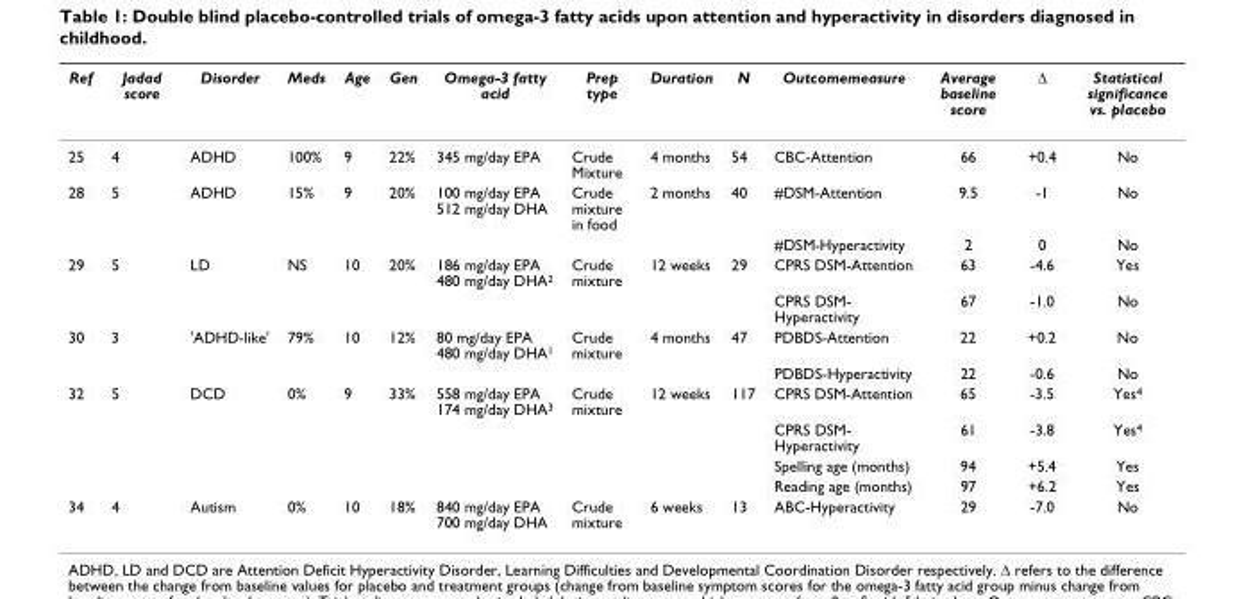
<table><thead><tr><td>Ref</td><td>Jadad score</td><td>Disorder</td><td>Meds</td><td>Age</td><td>Gen</td><td>Omega-3 fatty acid</td><td>Prep type</td><td>Duration</td><td>N</td><td>Outcomemeasure</td><td>Average baseline score</td><td>Δ</td><td>Statistical significance vs. placebo</td></tr></thead><tbody><tr><td>25</td><td>4</td><td>ADHD</td><td>100%</td><td>9</td><td>22%</td><td>345 mg/day EPA</td><td>Crude Mixture</td><td>4 months</td><td>54</td><td>CBC-Attention</td><td>66</td><td>+0.4</td><td>No</td></tr><tr><td rowspan="2">28</td><td>5</td><td>ADHD</td><td>15%</td><td>9</td><td>20%</td><td>100 mg/day EPA 512 mg/day DHA</td><td>Crude mixture in food</td><td>2 months</td><td>40</td><td>#DSM-Attention</td><td>9.5</td><td>-1</td><td>No</td></tr><tr><td></td><td></td><td></td><td></td><td></td><td></td><td></td><td></td><td></td><td>#DSM-Hyperactivity</td><td>2</td><td>0</td><td>No</td></tr><tr><td rowspan="2">29</td><td>5</td><td>LD</td><td>NS</td><td>10</td><td>20%</td><td>186 mg/day EPA 480 mg/day DHA<sup>2</sup></td><td>Crude mixture</td><td>12 weeks</td><td>29</td><td>CPRS DSM-Attention</td><td>63</td><td>-4.6</td><td>Yes</td></tr><tr><td></td><td></td><td></td><td></td><td></td><td></td><td></td><td></td><td></td><td>CPRS DSM- Hyperactivity</td><td>67</td><td>-1.0</td><td>No</td></tr><tr><td rowspan="2">30</td><td>3</td><td>&#x27;ADHD-like&#x27;</td><td>79%</td><td>10</td><td>12%</td><td>80 mg/day EPA 480 mg/day DHA<sup>1</sup></td><td>Crude mixture</td><td>4 months</td><td>47</td><td>PDBDS-Attention</td><td>22</td><td>+0.2</td><td>No</td></tr><tr><td></td><td></td><td></td><td></td><td></td><td></td><td></td><td></td><td></td><td>PDBDS-Hyperactivity</td><td>22</td><td>-0.6</td><td>No</td></tr><tr><td rowspan="4">32</td><td>5</td><td>DCD</td><td>0%</td><td>9</td><td>33%</td><td>558 mg/day EPA 174 mg/day DHA<sup>3</sup></td><td>Crude mixture</td><td>12 weeks</td><td>117</td><td>CPRS DSM-Attention</td><td>65</td><td>-3.5</td><td>Yes<sup>4</sup></td></tr><tr><td></td><td></td><td></td><td></td><td></td><td></td><td></td><td></td><td></td><td>CPRS DSM- Hyperactivity</td><td>61</td><td>-3.8</td><td>Yes<sup>4</sup></td></tr><tr><td></td><td></td><td></td><td></td><td></td><td></td><td></td><td></td><td></td><td>Spelling age (months)</td><td>94</td><td>+5.4</td><td>Yes</td></tr><tr><td></td><td></td><td></td><td></td><td></td><td></td><td></td><td></td><td></td><td>Reading age (months)</td><td>97</td><td>+6.2</td><td>Yes</td></tr><tr><td>34</td><td>4</td><td>Autism</td><td>0%</td><td>10</td><td>18%</td><td>840 mg/day EPA 700 mg/day DHA</td><td>Crude mixture</td><td>6 weeks</td><td>13</td><td>ABC-Hyperactivity</td><td>29</td><td>-7.0</td><td>No</td></tr></tbody></table>